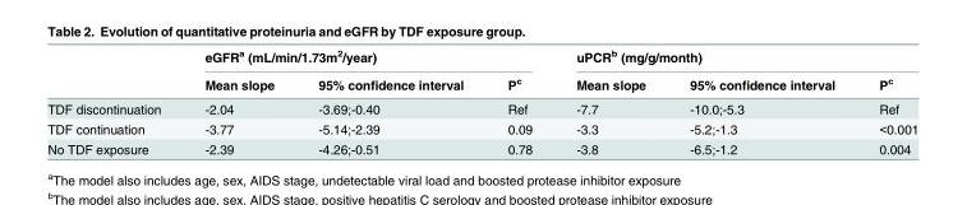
<table><thead><tr><td rowspan="2"></td><td colspan="3">eGFR<sup>a</sup> (mL/min/1.73m<sup>2</sup>/year)</td><td colspan="3">uPCR<sup>b</sup> (mg/g/month)</td></tr><tr><td>Mean slope</td><td>95% confidence interval</td><td>P<sup>c</sup></td><td>Mean slope</td><td>95% confidence interval</td><td>P<sup>c</sup></td></tr></thead><tbody><tr><td>TDF discontinuation</td><td>-2.04</td><td>-3.69;-0.40</td><td>Ref</td><td>-7.7</td><td>-10.0;-5.3</td><td>Ref</td></tr><tr><td>TDF continuation</td><td>-3.77</td><td>-5.14;-2.39</td><td>0.09</td><td>-3.3</td><td>-5.2;-1.3</td><td>&lt;0.001</td></tr><tr><td>No TDF exposure</td><td>-2.39</td><td>-4.26;-0.51</td><td>0.78</td><td>-3.8</td><td>-6.5;-1.2</td><td>0.004</td></tr></tbody></table>